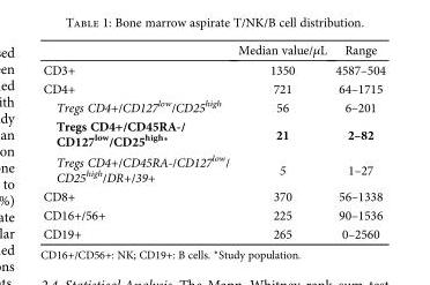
<table><thead><tr><td></td><td>Median value/μL</td><td>Range</td></tr></thead><tbody><tr><td>CD3+</td><td>1350</td><td>4587–504</td></tr><tr><td>CD4+</td><td>721</td><td>64–1715</td></tr><tr><td>Tregs CD4+/CD127<sup>low</sup>/CD25<sup>high</sup></td><td>56</td><td>6–201</td></tr><tr><td>Tregs CD4+/CD45RA-/ CD127<sup>low</sup>/CD25<sup>high∗</sup></td><td>21</td><td>2–82</td></tr><tr><td>Tregs CD4+/CD45RA-/CD127<sup>low</sup>/ CD25<sup>high</sup>/DR+/39+</td><td>5</td><td>1–27</td></tr><tr><td>CD8+</td><td>370</td><td>56–1338</td></tr><tr><td>CD16+/56+</td><td>225</td><td>90–1536</td></tr><tr><td>CD19+</td><td>265</td><td>0–2560</td></tr></tbody></table>